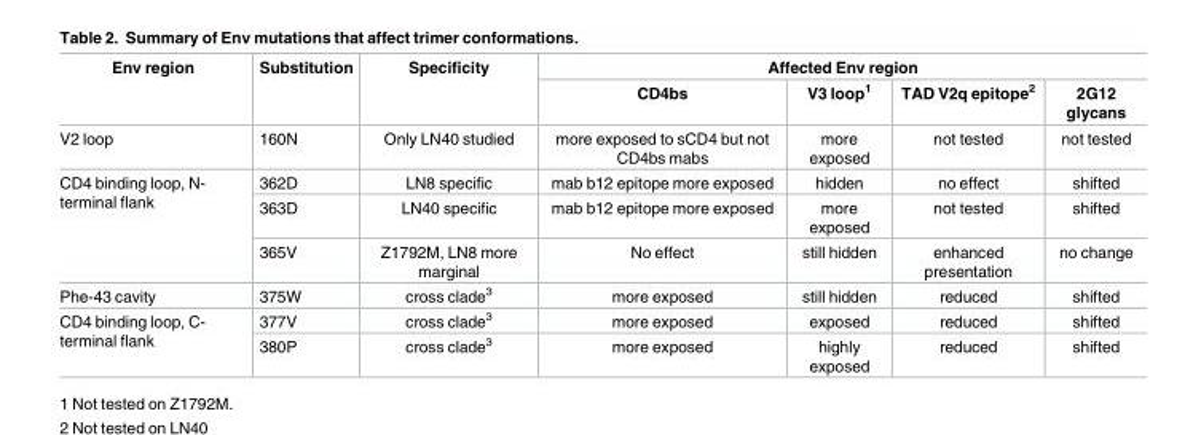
<table><thead><tr><td rowspan="2">Env region</td><td rowspan="2">Substitution</td><td rowspan="2">Specificity</td><td colspan="4">Affected Env region</td></tr><tr><td>CD4bs</td><td>V3 loop<sup>1</sup></td><td>TAD V2q epitope<sup>2</sup></td><td>2G12 glycans</td></tr></thead><tbody><tr><td>V2 loop</td><td>160N</td><td>Only LN40 studied</td><td>more exposed to sCD4 but not CD4bs mabs</td><td>more exposed</td><td>not tested</td><td>not tested</td></tr><tr><td rowspan="3">CD4 binding loop, N- terminal flank</td><td>362D</td><td>LN8 specific</td><td>mab b12 epitope more exposed</td><td>hidden</td><td>no effect</td><td>shifted</td></tr><tr><td>363D</td><td>LN40 specific</td><td>mab b12 epitope more exposed</td><td>more exposed</td><td>not tested</td><td>shifted</td></tr><tr><td>365V</td><td>Z1792M, LN8 more marginal</td><td>No effect</td><td>still hidden</td><td>enhanced presentation</td><td>no change</td></tr><tr><td>Phe-43 cavity</td><td>375W</td><td>cross clade<sup>3</sup></td><td>more exposed</td><td>still hidden</td><td>reduced</td><td>shifted</td></tr><tr><td rowspan="2">CD4 binding loop, C- terminal flank</td><td>377V</td><td>cross clade<sup>3</sup></td><td>more exposed</td><td>exposed</td><td>reduced</td><td>shifted</td></tr><tr><td>380P</td><td>cross clade<sup>3</sup></td><td>more exposed</td><td>highly exposed</td><td>reduced</td><td>shifted</td></tr></tbody></table>